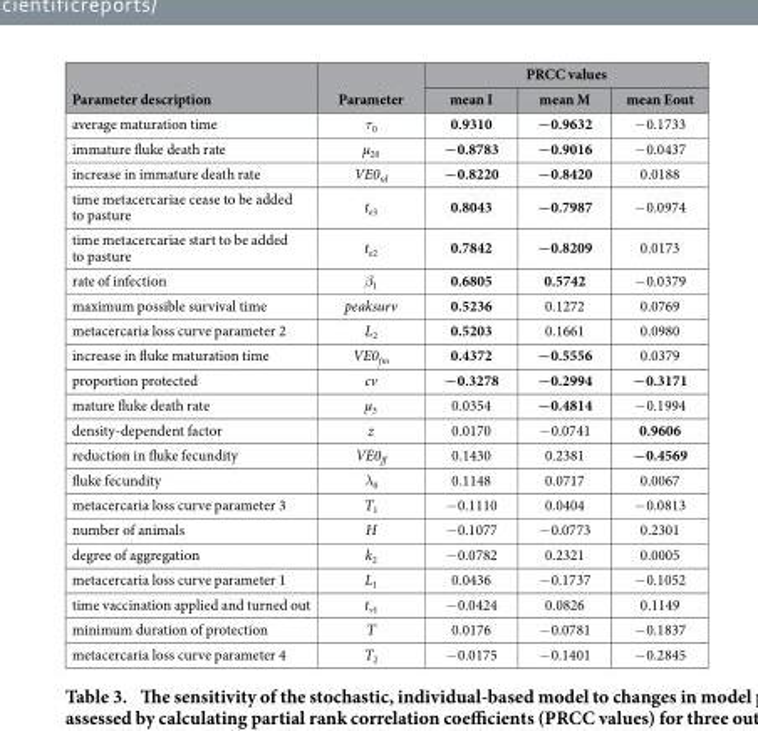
<table><thead><tr><td rowspan="2">Parameter description</td><td rowspan="2">Parameter</td><td colspan="3">PRCC values</td></tr><tr><td>mean I</td><td>mean M</td><td>mean Eout</td></tr></thead><tbody><tr><td>average maturation time</td><td>τ<sub>0</sub></td><td>0.9310</td><td>−0.9632</td><td>− 0.1733</td></tr><tr><td>immature fluke death rate</td><td>μ<sub>20</sub></td><td>−0.8783</td><td>−0.9016</td><td>− 0.0437</td></tr><tr><td>increase in immature death rate</td><td>VE0<sub>id</sub></td><td>−0.8220</td><td>−0.8420</td><td>0.0188</td></tr><tr><td>time metacercariae cease to be added to pasture</td><td>t<sub>e3</sub></td><td>0.8043</td><td>−0.7987</td><td>− 0.0974</td></tr><tr><td>time metacercariae start to be added to pasture</td><td>t<sub>e2</sub></td><td>0.7842</td><td>−0.8209</td><td>0.0173</td></tr><tr><td>rate of infection</td><td>β<sub>1</sub></td><td>0.6805</td><td>0.5742</td><td>− 0.0379</td></tr><tr><td>maximum possible survival time</td><td>peaksurv</td><td>0.5236</td><td>0.1272</td><td>0.0769</td></tr><tr><td>metacercaria loss curve parameter 2</td><td>L<sub>2</sub></td><td>0.5203</td><td>0.1661</td><td>0.0980</td></tr><tr><td>increase in fluke maturation time</td><td>VE0<sub>fm</sub></td><td>0.4372</td><td>−0.5556</td><td>0.0379</td></tr><tr><td>proportion protected</td><td>cv</td><td>−0.3278</td><td>−0.2994</td><td>−0.3171</td></tr><tr><td>mature fluke death rate</td><td>μ<sub>3</sub></td><td>0.0354</td><td>−0.4814</td><td>− 0.1994</td></tr><tr><td>density-dependent factor</td><td>z</td><td>0.0170</td><td>− 0.0741</td><td>0.9606</td></tr><tr><td>reduction in fluke fecundity</td><td>VE0<sub>ff</sub></td><td>0.1430</td><td>0.2381</td><td>−0.4569</td></tr><tr><td>fluke fecundity</td><td>λ<sub>0</sub></td><td>0.1148</td><td>0.0717</td><td>0.0067</td></tr><tr><td>metacercaria loss curve parameter 3</td><td>T<sub>1</sub></td><td>− 0.1110</td><td>0.0404</td><td>− 0.0813</td></tr><tr><td>number of animals</td><td>H</td><td>− 0.1077</td><td>− 0.0773</td><td>0.2301</td></tr><tr><td>degree of aggregation</td><td>k<sub>2</sub></td><td>− 0.0782</td><td>0.2321</td><td>0.0005</td></tr><tr><td>metacercaria loss curve parameter 1</td><td>L<sub>1</sub></td><td>0.0436</td><td>− 0.1737</td><td>− 0.1052</td></tr><tr><td>time vaccination applied and turned out</td><td>t<sub>v1</sub></td><td>− 0.0424</td><td>0.0826</td><td>0.1149</td></tr><tr><td>minimum duration of protection</td><td>T</td><td>0.0176</td><td>− 0.0781</td><td>− 0.1837</td></tr><tr><td>metacercaria loss curve parameter 4</td><td>T<sub>2</sub></td><td>− 0.0175</td><td>− 0.1401</td><td>− 0.2845</td></tr></tbody></table>